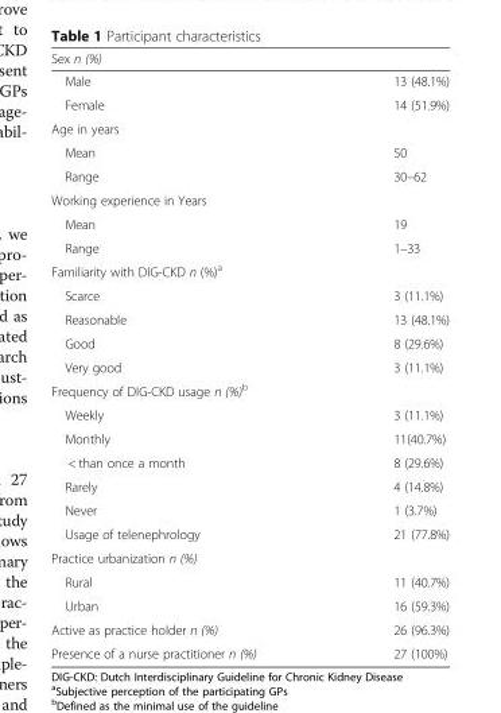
<table><thead><tr><td colspan="2">Sex n (%)</td></tr><tr><td>Male</td><td>13 (48.1%)</td></tr></thead><tbody><tr><td>Female</td><td>14 (51.9%)</td></tr><tr><td colspan="2">Age in years</td></tr><tr><td>Mean</td><td>50</td></tr><tr><td>Range</td><td>30–62</td></tr><tr><td colspan="2">Working experience in Years</td></tr><tr><td>Mean</td><td>19</td></tr><tr><td>Range</td><td>1–33</td></tr><tr><td colspan="2">Familiarity with DIG-CKD n (%)<sup>a</sup></td></tr><tr><td>Scarce</td><td>3 (11.1%)</td></tr><tr><td>Reasonable</td><td>13 (48.1%)</td></tr><tr><td>Good</td><td>8 (29.6%)</td></tr><tr><td>Very good</td><td>3 (11.1%)</td></tr><tr><td colspan="2">Frequency of DIG-CKD usage n (%)<sup>b</sup></td></tr><tr><td>Weekly</td><td>3 (11.1%)</td></tr><tr><td>Monthly</td><td>11(40.7%)</td></tr><tr><td>&lt; than once a month</td><td>8 (29.6%)</td></tr><tr><td>Rarely</td><td>4 (14.8%)</td></tr><tr><td>Never</td><td>1 (3.7%)</td></tr><tr><td>Usage of telenephrology</td><td>21 (77.8%)</td></tr><tr><td colspan="2">Practice urbanization n (%)</td></tr><tr><td>Rural</td><td>11 (40.7%)</td></tr><tr><td>Urban</td><td>16 (59.3%)</td></tr><tr><td>Active as practice holder n (%)</td><td>26 (96.3%)</td></tr><tr><td>Presence of a nurse practitioner n (%)</td><td>27 (100%)</td></tr></tbody></table>